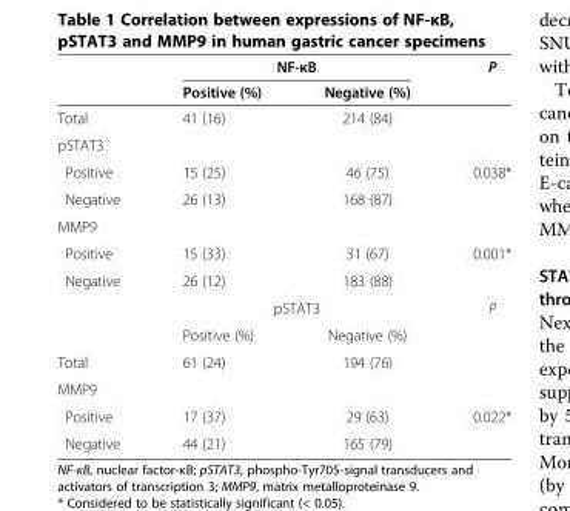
<table><thead><tr><td rowspan="2"></td><td colspan="2">NF-κB</td><td rowspan="2">P</td></tr><tr><td>Positive (%)</td><td>Negative (%)</td></tr></thead><tbody><tr><td>Total</td><td>41 (16)</td><td>214 (84)</td><td></td></tr><tr><td colspan="4">pSTAT3</td></tr><tr><td>Positive</td><td>15 (25)</td><td>46 (75)</td><td>0.038*</td></tr><tr><td>Negative</td><td>26 (13)</td><td>168 (87)</td><td></td></tr><tr><td colspan="4">MMP9</td></tr><tr><td>Positive</td><td>15 (33)</td><td>31 (67)</td><td>0.001*</td></tr><tr><td rowspan="3">Negative</td><td>26 (12)</td><td>183 (88)</td><td></td></tr><tr><td colspan="2">pSTAT3</td><td rowspan="2">P</td></tr><tr><td>Positive (%)</td><td>Negative (%)</td></tr><tr><td>Total</td><td>61 (24)</td><td>194 (76)</td><td></td></tr><tr><td colspan="4">MMP9</td></tr><tr><td>Positive</td><td>17 (37)</td><td>29 (63)</td><td>0.022*</td></tr><tr><td>Negative</td><td>44 (21)</td><td>165 (79)</td><td></td></tr></tbody></table>